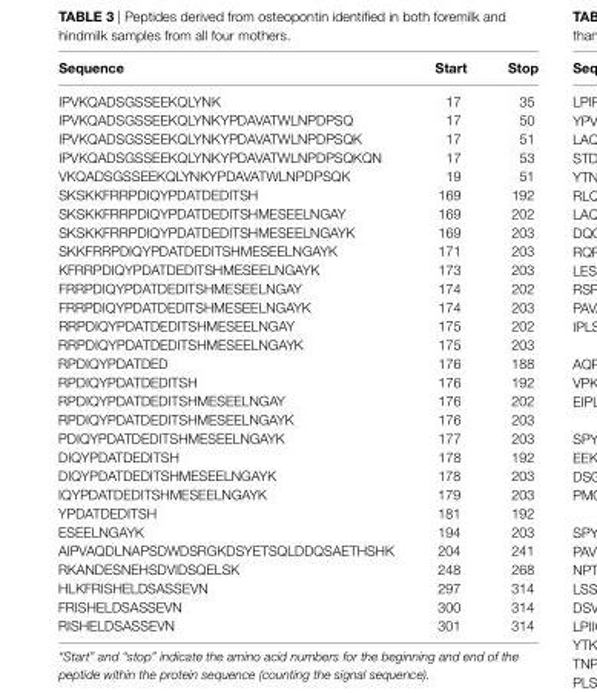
<table><thead><tr><td>sequence</td><td>start</td><td>stop</td></tr></thead><tbody><tr><td>IPVKQADSGSSEEKQLYNK</td><td>17</td><td>35</td></tr><tr><td>IPVKQADSGSSEEKQLYNKYPDAVATWLNPDPSQ</td><td>17</td><td>50</td></tr><tr><td>IPVKQADSGSSEEKQLYNKYPDAVATWLNPDPSQK</td><td>17</td><td>51</td></tr><tr><td>IPVKQADSGSSEEKQLYNKYPDAVATWLNPDPSQKQN</td><td>17</td><td>53</td></tr><tr><td>VKQADSGSSEEKQLYNKYPDAVATWLNPDPSQK</td><td>19</td><td>51</td></tr><tr><td>SKSKKFRRPDIQYPDATDEDITSH</td><td>169</td><td>192</td></tr><tr><td>SKSKKFRRPDIQYPDATDEDITSHMESEELNGAY</td><td>169</td><td>202</td></tr><tr><td>SKSKKFRRPDIQYPDATDEDITSHMESEELNGAYK</td><td>169</td><td>203</td></tr><tr><td>SKKFRRPDIQYPDATDEDITSHMESEELNGAYK</td><td>171</td><td>203</td></tr><tr><td>KFRRPDIQYPDATDEDITSHMESEELNGAYK</td><td>173</td><td>203</td></tr><tr><td>FRRPDIQYPDATDEDITSHMESEELNGAY</td><td>174</td><td>202</td></tr><tr><td>FRRPDIQYPDATDEDITSHMESEELNGAYK</td><td>174</td><td>203</td></tr><tr><td>RRPDIQYPDATDEDITSHMESEELNGAY</td><td>175</td><td>202</td></tr><tr><td>RRPDIQYPDATDEDITSHMESEELNGAYK</td><td>175</td><td>203</td></tr><tr><td>RPDIQYPDATDED</td><td>176</td><td>188</td></tr><tr><td>RPDIQYPDATDEDITSH</td><td>176</td><td>192</td></tr><tr><td>RPDIQYPDATDEDITSHMESEELNGAY</td><td>176</td><td>202</td></tr><tr><td>RPDIQYPDATDEDITSHMESEELNGAYK</td><td>176</td><td>203</td></tr><tr><td>PDIQYPDATDEDITSHMESEELNGAYK</td><td>177</td><td>203</td></tr><tr><td>DIQYPDATDEDITSH</td><td>178</td><td>192</td></tr><tr><td>DIQYPDATDEDITSHMESEELNGAYK</td><td>178</td><td>203</td></tr><tr><td>IQYPDATDEDITSHMESEELNGAYK</td><td>179</td><td>203</td></tr><tr><td>YPDATDEDITSH</td><td>181</td><td>192</td></tr><tr><td>ESEELNGAYK</td><td>194</td><td>203</td></tr><tr><td>AIPVAQDLNAPSDWDSRGKDSYETSQLDDQSAETHSHK</td><td>204</td><td>241</td></tr><tr><td>RKANDESNEHSDVIDSQELSK</td><td>248</td><td>268</td></tr><tr><td>HLKFRISHELDSASSEVN</td><td>297</td><td>314</td></tr><tr><td>FRISHELDSASSEVN</td><td>300</td><td>314</td></tr><tr><td>RISHELDSASSEVN</td><td>301</td><td>314</td></tr></tbody></table>